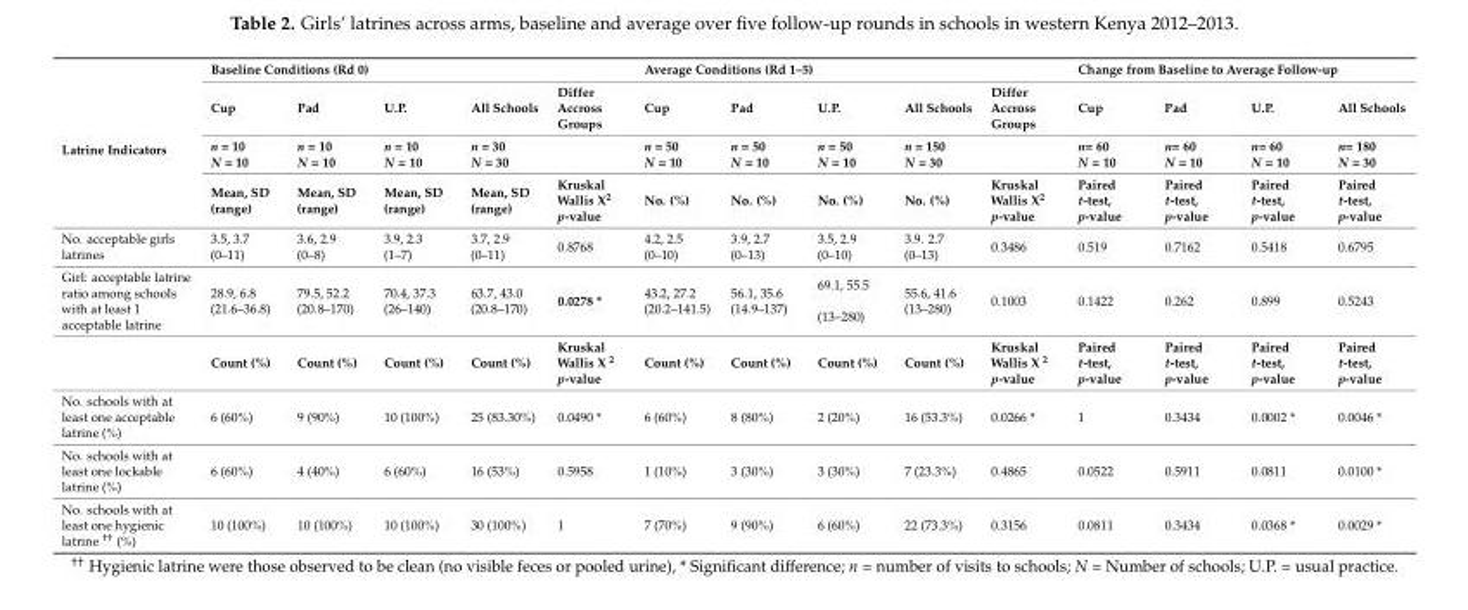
<table><thead><tr><td rowspan="4">Latrine Indicators</td><td colspan="5">Baseline Conditions (Rd 0)</td><td colspan="5">Average Conditions (Rd 1–5)</td><td colspan="4">Change from Baseline to Average Follow-up</td></tr><tr><td rowspan="3">Cup n = 10 N = 10 Mean, SD (range)</td><td rowspan="3">Pad n = 10 N = 10 Mean, SD (range)</td><td rowspan="3">U.P. n = 10 N = 10 Mean, SD (range)</td><td rowspan="3">All Schools n = 30 N = 30 Mean, SD (range)</td><td rowspan="3">Differ Accross Groups Kruskal Wallis X2 p-value</td><td rowspan="3">Cup n = 50 N = 10 No. (%)</td><td rowspan="3">Pad n = 50 N = 10 No. (%)</td><td rowspan="3">U.P. n = 50 N = 10 No. (%)</td><td rowspan="3">All Schools n = 150 N = 30 No. (%)</td><td rowspan="3">Differ Accross Groups Kruskal Wallis X2 p-value</td><td rowspan="3">Cup n= 60 N = 10 Paired t-test, p-value</td><td rowspan="3">Pad n= 60 N = 10 Paired t-test, p-value</td><td rowspan="3">U.P. n= 60 N = 10 Paired t-test, p-value</td><td rowspan="3">All Schools n= 180 N = 30 Paired t-test, p-value</td></tr><tr></tr><tr></tr></thead><tbody><tr><td>No. acceptable girls latrines</td><td>3.5, 3.7 (0–11)</td><td>3.6, 2.9 (0–8)</td><td>3.9, 2.3 (1–7)</td><td>3.7, 2.9 (0–11)</td><td>0.8768</td><td>4.2, 2.5 (0–10)</td><td>3.9, 2.7 (0–13)</td><td>3.5, 2.9 (0–10)</td><td>3.9. 2.7 (0–13)</td><td>0.3486</td><td>0.519</td><td>0.7162</td><td>0.5418</td><td>0.6795</td></tr><tr><td rowspan="2">Girl: acceptable latrine ratio among schools with at least 1 acceptable latrine</td><td>28.9, 6.8 (21.6–36.8)</td><td>79.5, 52.2 (20.8–170)</td><td>70.4, 37.3 (26–140)</td><td>63.7, 43.0 (20.8–170)</td><td>0.0278 *</td><td>43.2, 27.2 (20.2–141.5)</td><td>56.1, 35.6 (14.9–137)</td><td>69.1, 55.5 (13–280)</td><td>55.6, 41.6 (13–280)</td><td>0.1003</td><td>0.1422</td><td>0.262</td><td>0.899</td><td>0.5243</td></tr><tr><td>Count (%)</td><td>Count (%)</td><td>Count (%)</td><td>Count (%)</td><td>Kruskal Wallis X 2 p-value</td><td>Count (%)</td><td>Count (%)</td><td>Count (%)</td><td>Count (%)</td><td>Kruskal Wallis X 2 p-value</td><td>Paired t-test, p-value</td><td>Paired t-test, p-value</td><td>Paired t-test, p-value</td><td>Paired t-test, p-value</td></tr><tr><td>No. schools with at least one acceptable latrine (%)</td><td>6 (60%)</td><td>9 (90%)</td><td>10 (100%)</td><td>25 (83.30%)</td><td>0.0490 *</td><td>6 (60%)</td><td>8 (80%)</td><td>2 (20%)</td><td>16 (53.3%)</td><td>0.0266 *</td><td>1</td><td>0.3434</td><td>0.0002 *</td><td>0.0046 *</td></tr><tr><td>No. schools with at least one lockable latrine (%)</td><td>6 (60%)</td><td>4 (40%)</td><td>6 (60%)</td><td>16 (53%)</td><td>0.5958</td><td>1 (10%)</td><td>3 (30%)</td><td>3 (30%)</td><td>7 (23.3%)</td><td>0.4865</td><td>0.0522</td><td>0.5911</td><td>0.0811</td><td>0.0100 *</td></tr><tr><td>No. schools with at least one hygienic latrine <sup>††</sup> (%)</td><td>10 (100%)</td><td>10 (100%)</td><td>10 (100%)</td><td>30 (100%)</td><td>1</td><td>7 (70%)</td><td>9 (90%)</td><td>6 (60%)</td><td>22 (73.3%)</td><td>0.3156</td><td>0.0811</td><td>0.3434</td><td>0.0368 *</td><td>0.0029 *</td></tr></tbody></table>